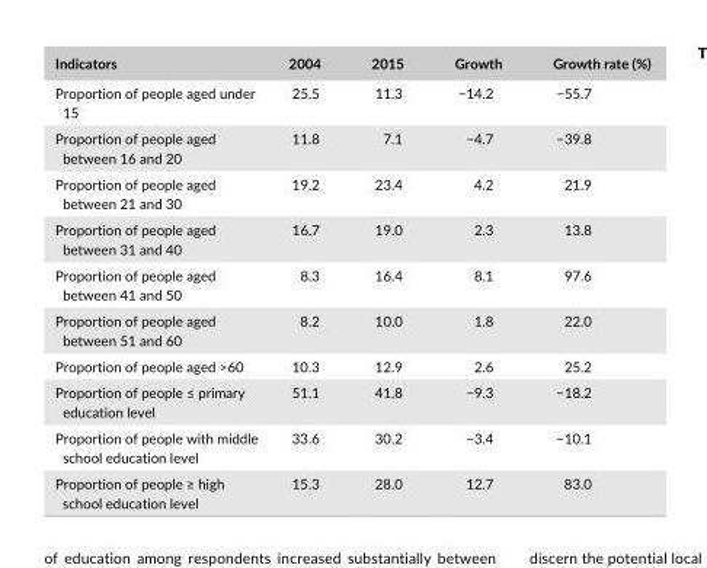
<table><thead><tr><td>Indicators</td><td>2004</td><td>2015</td><td>Growth</td><td>Growth rate (%)</td></tr></thead><tbody><tr><td>Proportion of people aged under 15</td><td>25.5</td><td>11.3</td><td>−14.2</td><td>−55.7</td></tr><tr><td>Proportion of people aged between 16 and 20</td><td>11.8</td><td>7.1</td><td>−4.7</td><td>−39.8</td></tr><tr><td>Proportion of people aged between 21 and 30</td><td>19.2</td><td>23.4</td><td>4.2</td><td>21.9</td></tr><tr><td>Proportion of people aged between 31 and 40</td><td>16.7</td><td>19.0</td><td>2.3</td><td>13.8</td></tr><tr><td>Proportion of people aged between 41 and 50</td><td>8.3</td><td>16.4</td><td>8.1</td><td>97.6</td></tr><tr><td>Proportion of people aged between 51 and 60</td><td>8.2</td><td>10.0</td><td>1.8</td><td>22.0</td></tr><tr><td>Proportion of people aged &gt;60</td><td>10.3</td><td>12.9</td><td>2.6</td><td>25.2</td></tr><tr><td>Proportion of people ≤ primary education level</td><td>51.1</td><td>41.8</td><td>−9.3</td><td>−18.2</td></tr><tr><td>Proportion of people with middle school education level</td><td>33.6</td><td>30.2</td><td>−3.4</td><td>−10.1</td></tr><tr><td>Proportion of people ≥ high school education level</td><td>15.3</td><td>28.0</td><td>12.7</td><td>83.0</td></tr></tbody></table>